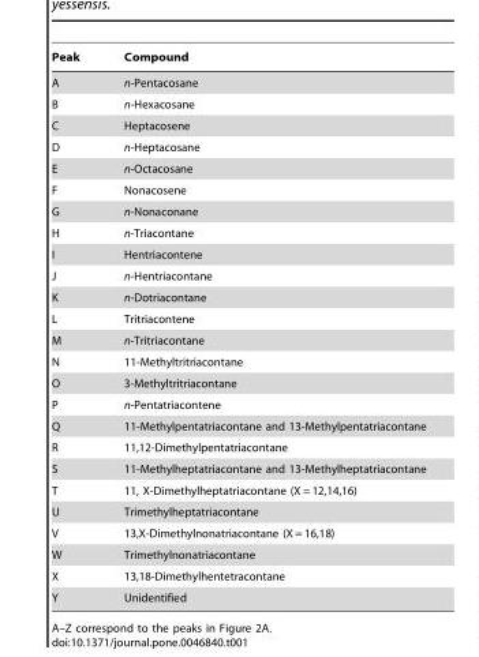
<table><thead><tr><td>Peak</td><td>Compound</td></tr></thead><tbody><tr><td>A</td><td>n-Pentacosane</td></tr><tr><td>B</td><td>n-Hexacosane</td></tr><tr><td>C</td><td>Heptacosene</td></tr><tr><td>D</td><td>n-Heptacosane</td></tr><tr><td>E</td><td>n-Octacosane</td></tr><tr><td>F</td><td>Nonacosene</td></tr><tr><td>G</td><td>n-Nonaconane</td></tr><tr><td>H</td><td>n-Triacontane</td></tr><tr><td>I</td><td>Hentriacontene</td></tr><tr><td>J</td><td>n-Hentriacontane</td></tr><tr><td>K</td><td>n-Dotriacontane</td></tr><tr><td>L</td><td>Tritriacontene</td></tr><tr><td>M</td><td>n-Tritriacontane</td></tr><tr><td>N</td><td>11-Methyltritriacontane</td></tr><tr><td>O</td><td>3-Methyltritriacontane</td></tr><tr><td>P</td><td>n-Pentatriacontene</td></tr><tr><td>Q</td><td>11-Methylpentatriacontane and 13-Methylpentatriacontane</td></tr><tr><td>R</td><td>11,12-Dimethylpentatriacontane</td></tr><tr><td>S</td><td>11-Methylheptatriacontane and 13-Methylheptatriacontane</td></tr><tr><td>T</td><td>11, X-Dimethylheptatriacontane (X = 12,14,16)</td></tr><tr><td>U</td><td>Trimethylheptatriacontane</td></tr><tr><td>V</td><td>13,X-Dimethylnonatriacontane (X = 16,18)</td></tr><tr><td>W</td><td>Trimethylnonatriacontane</td></tr><tr><td>X</td><td>13,18-Dimethylhentetracontane</td></tr><tr><td>Y</td><td>Unidentified</td></tr></tbody></table>